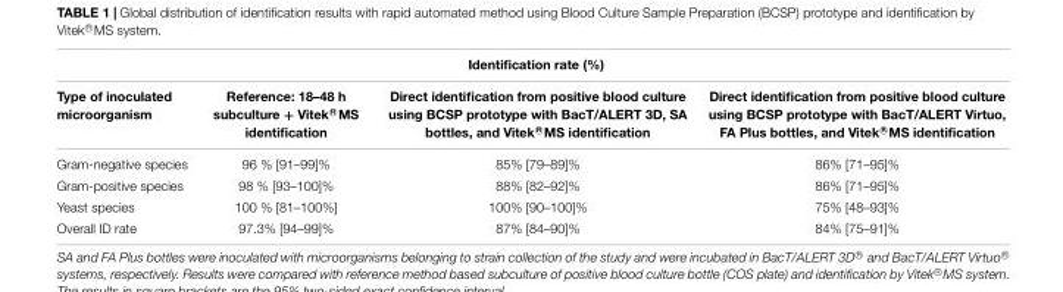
<table><thead><tr><td colspan="4">Identification rate (%)</td></tr><tr><td>Type of inoculated microorganism</td><td>Reference: 18–48 h subculture + Vitek R⃝MS identification</td><td>Direct identification from positive blood culture using BCSP prototype with BacT/ALERT 3D, SA bottles, and Vitek R⃝MS identification</td><td>Direct identification from positive blood culture using BCSP prototype with BacT/ALERT Virtuo, FA Plus bottles, and Vitek R⃝MS identification</td></tr></thead><tbody><tr><td>Gram-negative species</td><td>96 % [91–99]%</td><td>85% [79–89]%</td><td>86% [71–95]%</td></tr><tr><td>Gram-positive species</td><td>98 % [93–100]%</td><td>88% [82–92]%</td><td>86% [71–95]%</td></tr><tr><td>Yeast species</td><td>100 % [81–100%]</td><td>100% [90–100]%</td><td>75% [48–93]%</td></tr><tr><td>Overall ID rate</td><td>97.3% [94–99]%</td><td>87% [84–90]%</td><td>84% [75–91]%</td></tr></tbody></table>